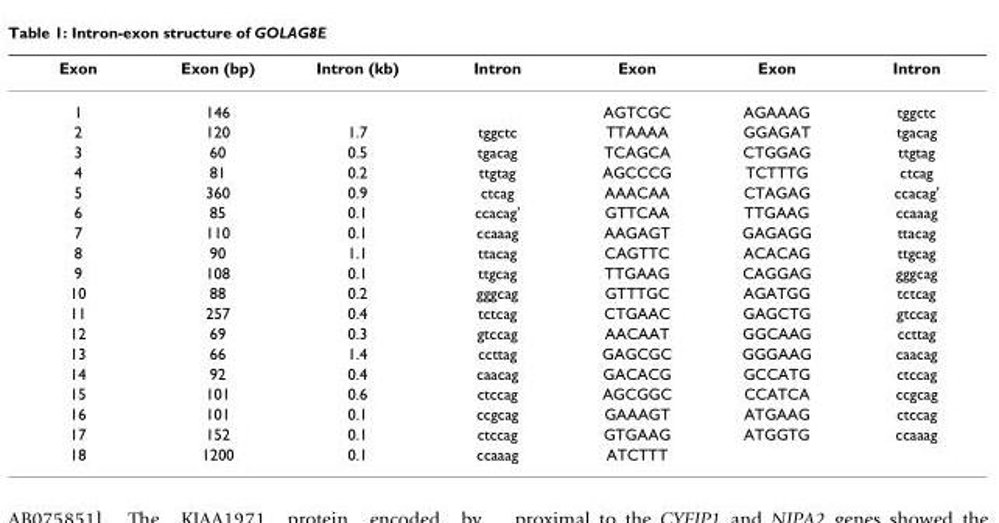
<table><thead><tr><td>Exon</td><td>Exon (bp)</td><td>Intron (kb)</td><td>Intron</td><td>Exon</td><td>Exon</td><td>Intron</td></tr></thead><tbody><tr><td>1</td><td>146</td><td></td><td></td><td>AGTCGC</td><td>AGAAAG</td><td>tggctc</td></tr><tr><td>2</td><td>120</td><td>1.7</td><td>tggctc</td><td>TTAAAA</td><td>GGAGAT</td><td>tgacag</td></tr><tr><td>3</td><td>60</td><td>0.5</td><td>tgacag</td><td>TCAGCA</td><td>CTGGAG</td><td>ttgtag</td></tr><tr><td>4</td><td>81</td><td>0.2</td><td>ttgtag</td><td>AGCCCG</td><td>TCTTTG</td><td>ctcag</td></tr><tr><td>5</td><td>360</td><td>0.9</td><td>ctcag</td><td>AAACAA</td><td>CTAGAG</td><td>ccacag&#x27;</td></tr><tr><td>6</td><td>85</td><td>0.1</td><td>ccacag&#x27;</td><td>GTTCAA</td><td>TTGAAG</td><td>ccaaag</td></tr><tr><td>7</td><td>110</td><td>0.1</td><td>ccaaag</td><td>AAGAGT</td><td>GAGAGG</td><td>ttacag</td></tr><tr><td>8</td><td>90</td><td>1.1</td><td>ttacag</td><td>CAGTTC</td><td>ACACAG</td><td>ttgcag</td></tr><tr><td>9</td><td>108</td><td>0.1</td><td>ttgcag</td><td>TTGAAG</td><td>CAGGAG</td><td>gggcag</td></tr><tr><td>10</td><td>88</td><td>0.2</td><td>gggcag</td><td>GTTTGC</td><td>AGATGG</td><td>tctcag</td></tr><tr><td>11</td><td>257</td><td>0.4</td><td>tctcag</td><td>CTGAAC</td><td>GAGCTG</td><td>gtccag</td></tr><tr><td>12</td><td>69</td><td>0.3</td><td>gtccag</td><td>AACAAT</td><td>GGCAAG</td><td>ccttag</td></tr><tr><td>13</td><td>66</td><td>1.4</td><td>ccttag</td><td>GAGCGC</td><td>GGGAAG</td><td>caacag</td></tr><tr><td>14</td><td>92</td><td>0.4</td><td>caacag</td><td>GACACG</td><td>GCCATG</td><td>ctccag</td></tr><tr><td>15</td><td>101</td><td>0.6</td><td>ctccag</td><td>AGCGGC</td><td>CCATCA</td><td>ccgcag</td></tr><tr><td>16</td><td>101</td><td>0.1</td><td>ccgcag</td><td>GAAAGT</td><td>ATGAAG</td><td>ctccag</td></tr><tr><td>17</td><td>152</td><td>0.1</td><td>ctccag</td><td>GTGAAG</td><td>ATGGTG</td><td>ccaaag</td></tr><tr><td>18</td><td>1200</td><td>0.1</td><td>ccaaag</td><td>ATCTTT</td><td></td><td></td></tr></tbody></table>